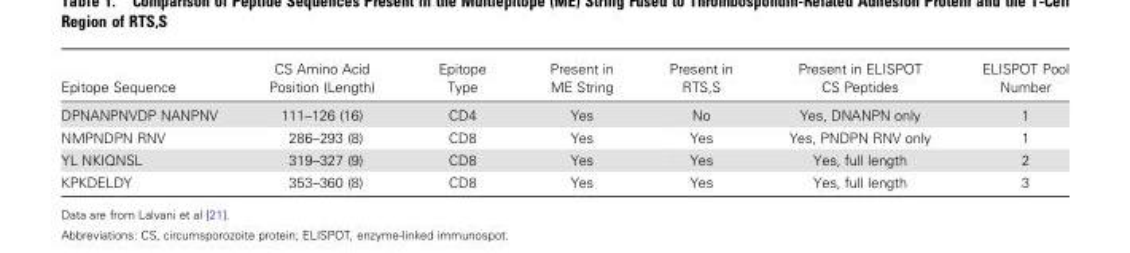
<table><thead><tr><td>Epitope Sequence</td><td>CS Amino Acid Position (Length)</td><td>Epitope Type</td><td>Present in ME String</td><td>Present in RTS,S</td><td>Present in ELISPOT CS Peptides</td><td>ELISPOT Pool Number</td></tr></thead><tbody><tr><td>DPNANPNVDP NANPNV</td><td>111–126 (16)</td><td>CD4</td><td>Yes</td><td>No</td><td>Yes, DNANPN only</td><td>1</td></tr><tr><td>NMPNDPN RNV</td><td>286–293 (8)</td><td>CD8</td><td>Yes</td><td>Yes</td><td>Yes, PNDPN RNV only</td><td>1</td></tr><tr><td>YL NKIQNSL</td><td>319–327 (9)</td><td>CD8</td><td>Yes</td><td>Yes</td><td>Yes, full length</td><td>2</td></tr><tr><td>KPKDELDY</td><td>353–360 (8)</td><td>CD8</td><td>Yes</td><td>Yes</td><td>Yes, full length</td><td>3</td></tr></tbody></table>